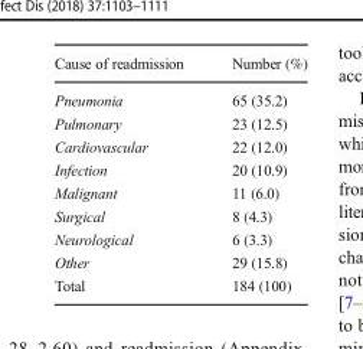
<table><thead><tr><td>Cause of readmission</td><td>Number (%)</td></tr></thead><tbody><tr><td>Pneumonia</td><td>65 (35.2)</td></tr><tr><td>Pulmonary</td><td>23 (12.5)</td></tr><tr><td>Cardiovascular</td><td>22 (12.0)</td></tr><tr><td>Infection</td><td>20 (10.9)</td></tr><tr><td>Malignant</td><td>11 (6.0)</td></tr><tr><td>Surgical</td><td>8 (4.3)</td></tr><tr><td>Neurological</td><td>6 (3.3)</td></tr><tr><td>Other</td><td>29 (15.8)</td></tr><tr><td>Total</td><td>184 (100)</td></tr></tbody></table>